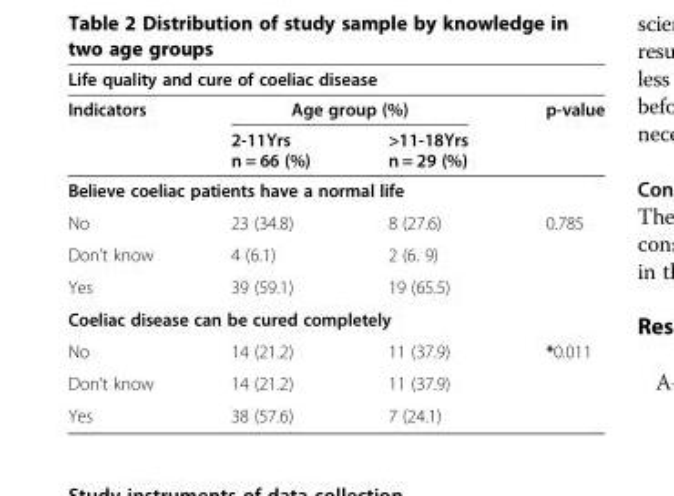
<table><thead><tr><td colspan="4">Life quality and cure of coeliac disease</td></tr><tr><td rowspan="2">Indicators</td><td colspan="2">Age group (%)</td><td rowspan="2">p-value</td></tr><tr><td>2-11Yrs n = 66 (%)</td><td>&gt;11-18Yrs n = 29 (%)</td></tr></thead><tbody><tr><td colspan="4">Believe coeliac patients have a normal life</td></tr><tr><td>No</td><td>23 (34.8)</td><td>8 (27.6)</td><td rowspan="3">0.785</td></tr><tr><td>Don’t know</td><td>4 (6.1)</td><td>2 (6. 9)</td></tr><tr><td>Yes</td><td>39 (59.1)</td><td>19 (65.5)</td></tr><tr><td colspan="4">Coeliac disease can be cured completely</td></tr><tr><td>No</td><td>14 (21.2)</td><td>11 (37.9)</td><td rowspan="2">*0.011</td></tr><tr><td>Don’t know</td><td>14 (21.2)</td><td>11 (37.9)</td></tr><tr><td>Yes</td><td>38 (57.6)</td><td>7 (24.1)</td><td></td></tr></tbody></table>